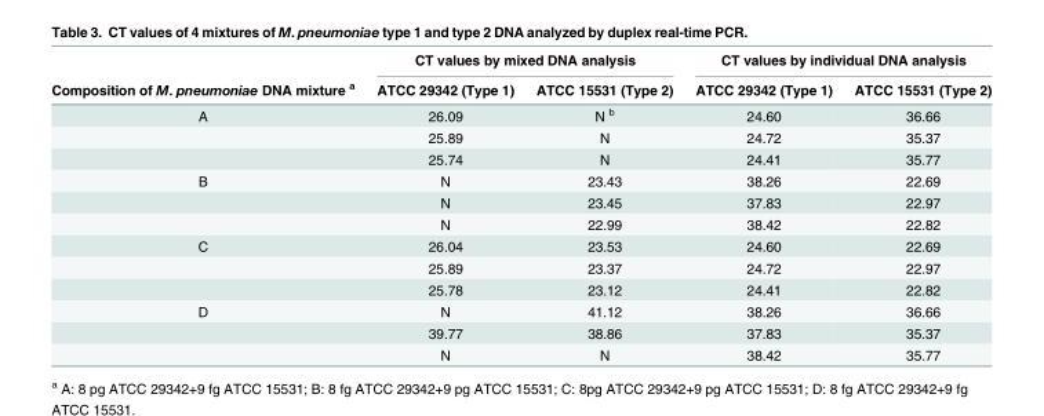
<table><thead><tr><td rowspan="2">Composition of M. pneumoniae DNA mixture <sup>a</sup></td><td colspan="2">CT values by mixed DNA analysis</td><td colspan="2">CT values by individual DNA analysis</td></tr><tr><td>ATCC 29342 (Type 1)</td><td>ATCC 15531 (Type 2)</td><td>ATCC 29342 (Type 1)</td><td>ATCC 15531 (Type 2)</td></tr></thead><tbody><tr><td rowspan="3">A</td><td>26.09</td><td>N <sup>b</sup></td><td>24.60</td><td>36.66</td></tr><tr><td>25.89</td><td>N</td><td>24.72</td><td>35.37</td></tr><tr><td>25.74</td><td>N</td><td>24.41</td><td>35.77</td></tr><tr><td rowspan="3">B</td><td>N</td><td>23.43</td><td>38.26</td><td>22.69</td></tr><tr><td>N</td><td>23.45</td><td>37.83</td><td>22.97</td></tr><tr><td>N</td><td>22.99</td><td>38.42</td><td>22.82</td></tr><tr><td rowspan="3">C</td><td>26.04</td><td>23.53</td><td>24.60</td><td>22.69</td></tr><tr><td>25.89</td><td>23.37</td><td>24.72</td><td>22.97</td></tr><tr><td>25.78</td><td>23.12</td><td>24.41</td><td>22.82</td></tr><tr><td rowspan="3">D</td><td>N</td><td>41.12</td><td>38.26</td><td>36.66</td></tr><tr><td>39.77</td><td>38.86</td><td>37.83</td><td>35.37</td></tr><tr><td>N</td><td>N</td><td>38.42</td><td>35.77</td></tr></tbody></table>